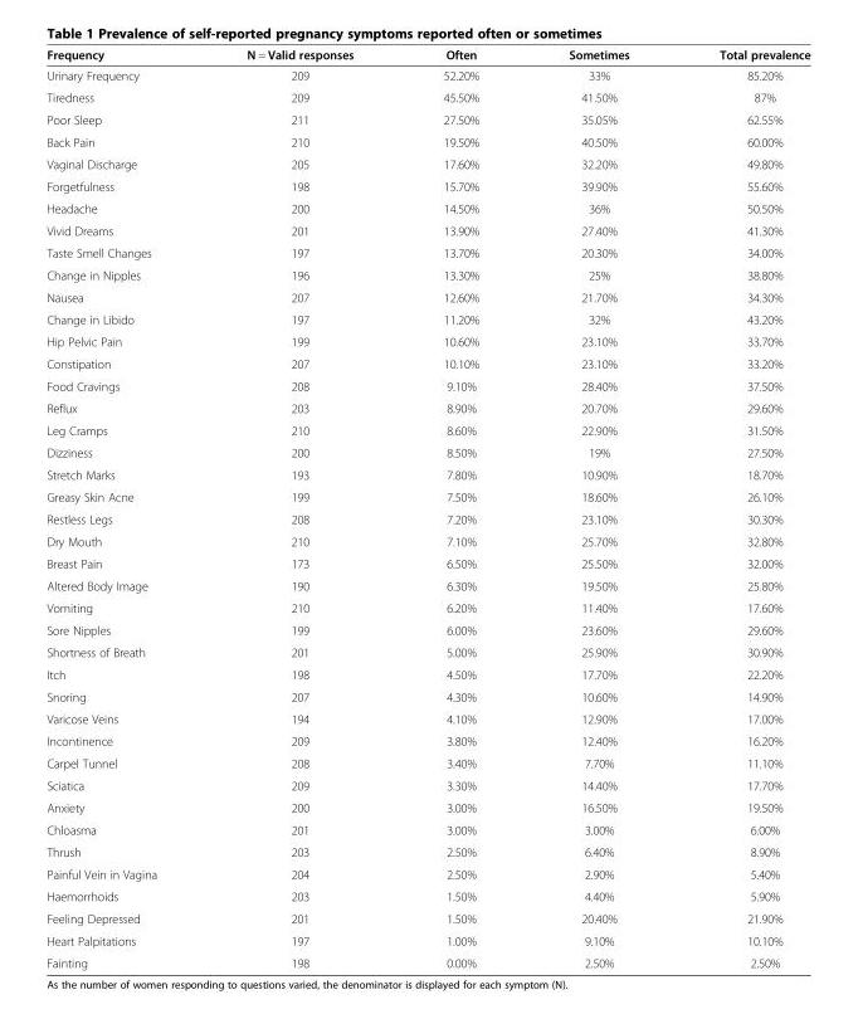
<table><thead><tr><td>Frequency</td><td>N = Valid responses</td><td>Often</td><td>Sometimes</td><td>Total prevalence</td></tr></thead><tbody><tr><td>Urinary Frequency</td><td>209</td><td>52.20%</td><td>33%</td><td>85.20%</td></tr><tr><td>Tiredness</td><td>209</td><td>45.50%</td><td>41.50%</td><td>87%</td></tr><tr><td>Poor Sleep</td><td>211</td><td>27.50%</td><td>35.05%</td><td>62.55%</td></tr><tr><td>Back Pain</td><td>210</td><td>19.50%</td><td>40.50%</td><td>60.00%</td></tr><tr><td>Vaginal Discharge</td><td>205</td><td>17.60%</td><td>32.20%</td><td>49.80%</td></tr><tr><td>Forgetfulness</td><td>198</td><td>15.70%</td><td>39.90%</td><td>55.60%</td></tr><tr><td>Headache</td><td>200</td><td>14.50%</td><td>36%</td><td>50.50%</td></tr><tr><td>Vivid Dreams</td><td>201</td><td>13.90%</td><td>27.40%</td><td>41.30%</td></tr><tr><td>Taste Smell Changes</td><td>197</td><td>13.70%</td><td>20.30%</td><td>34.00%</td></tr><tr><td>Change in Nipples</td><td>196</td><td>13.30%</td><td>25%</td><td>38.80%</td></tr><tr><td>Nausea</td><td>207</td><td>12.60%</td><td>21.70%</td><td>34.30%</td></tr><tr><td>Change in Libido</td><td>197</td><td>11.20%</td><td>32%</td><td>43.20%</td></tr><tr><td>Hip Pelvic Pain</td><td>199</td><td>10.60%</td><td>23.10%</td><td>33.70%</td></tr><tr><td>Constipation</td><td>207</td><td>10.10%</td><td>23.10%</td><td>33.20%</td></tr><tr><td>Food Cravings</td><td>208</td><td>9.10%</td><td>28.40%</td><td>37.50%</td></tr><tr><td>Reflux</td><td>203</td><td>8.90%</td><td>20.70%</td><td>29.60%</td></tr><tr><td>Leg Cramps</td><td>210</td><td>8.60%</td><td>22.90%</td><td>31.50%</td></tr><tr><td>Dizziness</td><td>200</td><td>8.50%</td><td>19%</td><td>27.50%</td></tr><tr><td>Stretch Marks</td><td>193</td><td>7.80%</td><td>10.90%</td><td>18.70%</td></tr><tr><td>Greasy Skin Acne</td><td>199</td><td>7.50%</td><td>18.60%</td><td>26.10%</td></tr><tr><td>Restless Legs</td><td>208</td><td>7.20%</td><td>23.10%</td><td>30.30%</td></tr><tr><td>Dry Mouth</td><td>210</td><td>7.10%</td><td>25.70%</td><td>32.80%</td></tr><tr><td>Breast Pain</td><td>173</td><td>6.50%</td><td>25.50%</td><td>32.00%</td></tr><tr><td>Altered Body Image</td><td>190</td><td>6.30%</td><td>19.50%</td><td>25.80%</td></tr><tr><td>Vomiting</td><td>210</td><td>6.20%</td><td>11.40%</td><td>17.60%</td></tr><tr><td>Sore Nipples</td><td>199</td><td>6.00%</td><td>23.60%</td><td>29.60%</td></tr><tr><td>Shortness of Breath</td><td>201</td><td>5.00%</td><td>25.90%</td><td>30.90%</td></tr><tr><td>Itch</td><td>198</td><td>4.50%</td><td>17.70%</td><td>22.20%</td></tr><tr><td>Snoring</td><td>207</td><td>4.30%</td><td>10.60%</td><td>14.90%</td></tr><tr><td>Varicose Veins</td><td>194</td><td>4.10%</td><td>12.90%</td><td>17.00%</td></tr><tr><td>Incontinence</td><td>209</td><td>3.80%</td><td>12.40%</td><td>16.20%</td></tr><tr><td>Carpel Tunnel</td><td>208</td><td>3.40%</td><td>7.70%</td><td>11.10%</td></tr><tr><td>Sciatica</td><td>209</td><td>3.30%</td><td>14.40%</td><td>17.70%</td></tr><tr><td>Anxiety</td><td>200</td><td>3.00%</td><td>16.50%</td><td>19.50%</td></tr><tr><td>Chloasma</td><td>201</td><td>3.00%</td><td>3.00%</td><td>6.00%</td></tr><tr><td>Thrush</td><td>203</td><td>2.50%</td><td>6.40%</td><td>8.90%</td></tr><tr><td>Painful Vein in Vagina</td><td>204</td><td>2.50%</td><td>2.90%</td><td>5.40%</td></tr><tr><td>Haemorrhoids</td><td>203</td><td>1.50%</td><td>4.40%</td><td>5.90%</td></tr><tr><td>Feeling Depressed</td><td>201</td><td>1.50%</td><td>20.40%</td><td>21.90%</td></tr><tr><td>Heart Palpitations</td><td>197</td><td>1.00%</td><td>9.10%</td><td>10.10%</td></tr><tr><td>Fainting</td><td>198</td><td>0.00%</td><td>2.50%</td><td>2.50%</td></tr></tbody></table>